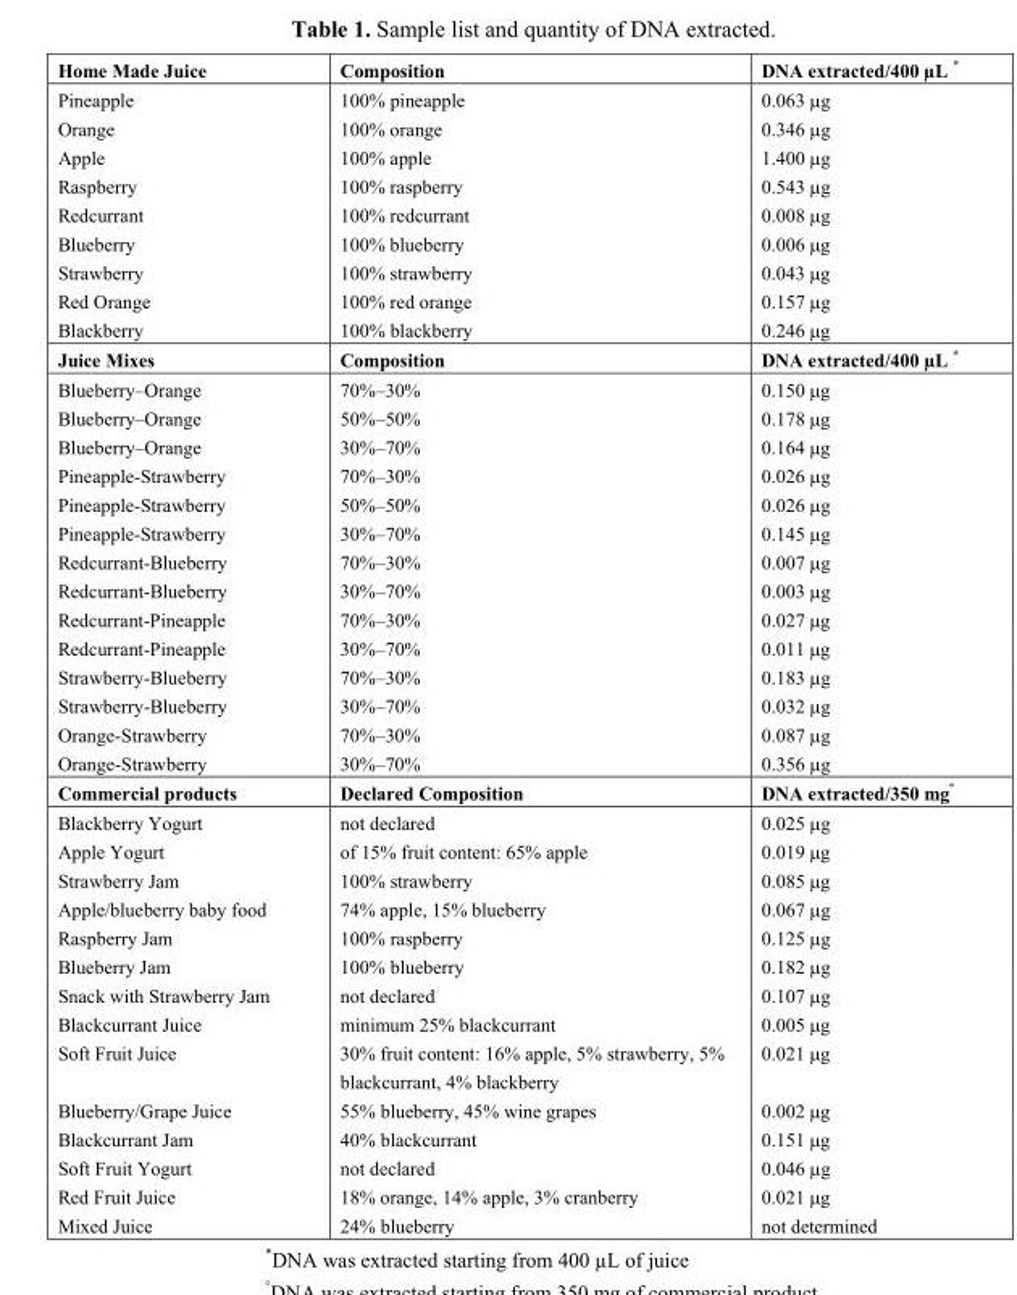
<table><thead><tr><td>Home Made Juice</td><td>Composition</td><td>DNA extracted/400 µL *</td></tr></thead><tbody><tr><td>Pineapple</td><td>100% pineapple</td><td>0.063 μg</td></tr><tr><td>Orange</td><td>100% orange</td><td>0.346 μg</td></tr><tr><td>Apple</td><td>100% apple</td><td>1.400 μg</td></tr><tr><td>Raspberry</td><td>100% raspberry</td><td>0.543 μg</td></tr><tr><td>Redcurrant</td><td>100% redcurrant</td><td>0.008 μg</td></tr><tr><td>Blueberry</td><td>100% blueberry</td><td>0.006 μg</td></tr><tr><td>Strawberry</td><td>100% strawberry</td><td>0.043 μg</td></tr><tr><td>Red Orange</td><td>100% red orange</td><td>0.157 μg</td></tr><tr><td>Blackberry</td><td>100% blackberry</td><td>0.246 μg</td></tr><tr><td>Juice Mixes</td><td>Composition</td><td>DNA extracted/400 µL *</td></tr><tr><td>Blueberry–Orange</td><td>70%–30%</td><td>0.150 μg</td></tr><tr><td>Blueberry–Orange</td><td>50%–50%</td><td>0.178 μg</td></tr><tr><td>Blueberry–Orange</td><td>30%–70%</td><td>0.164 μg</td></tr><tr><td>Pineapple-Strawberry</td><td>70%–30%</td><td>0.026 μg</td></tr><tr><td>Pineapple-Strawberry</td><td>50%–50%</td><td>0.026 μg</td></tr><tr><td>Pineapple-Strawberry</td><td>30%–70%</td><td>0.145 μg</td></tr><tr><td>Redcurrant-Blueberry</td><td>70%–30%</td><td>0.007 μg</td></tr><tr><td>Redcurrant-Blueberry</td><td>30%–70%</td><td>0.003 μg</td></tr><tr><td>Redcurrant-Pineapple</td><td>70%–30%</td><td>0.027 μg</td></tr><tr><td>Redcurrant-Pineapple</td><td>30%–70%</td><td>0.011 μg</td></tr><tr><td>Strawberry-Blueberry</td><td>70%–30%</td><td>0.183 μg</td></tr><tr><td>Strawberry-Blueberry</td><td>30%–70%</td><td>0.032 μg</td></tr><tr><td>Orange-Strawberry</td><td>70%–30%</td><td>0.087 μg</td></tr><tr><td>Orange-Strawberry</td><td>30%–70%</td><td>0.356 μg</td></tr><tr><td>Commercial products</td><td>Declared Composition</td><td>DNA extracted/350 mgº</td></tr><tr><td>Blackberry Yogurt</td><td>not declared</td><td>0.025 μg</td></tr><tr><td>Apple Yogurt</td><td>of 15% fruit content: 65% apple</td><td>0.019 μg</td></tr><tr><td>Strawberry Jam</td><td>100% strawberry</td><td>0.085 μg</td></tr><tr><td>Apple/blueberry baby food</td><td>74% apple, 15% blueberry</td><td>0.067 μg</td></tr><tr><td>Raspberry Jam</td><td>100% raspberry</td><td>0.125 μg</td></tr><tr><td>Blueberry Jam</td><td>100% blueberry</td><td>0.182 μg</td></tr><tr><td>Snack with Strawberry Jam</td><td>not declared</td><td>0.107 μg</td></tr><tr><td>Blackcurrant Juice</td><td>minimum 25% blackcurrant</td><td>0.005 μg</td></tr><tr><td>Soft Fruit Juice</td><td>30% fruit content: 16% apple, 5% strawberry, 5% blackcurrant, 4% blackberry</td><td>0.021 μg</td></tr><tr><td>Blueberry/Grape Juice</td><td>55% blueberry, 45% wine grapes</td><td>0.002 μg</td></tr><tr><td>Blackcurrant Jam</td><td>40% blackcurrant</td><td>0.151 μg</td></tr><tr><td>Soft Fruit Yogurt</td><td>not declared</td><td>0.046 μg</td></tr><tr><td>Red Fruit Juice</td><td>18% orange, 14% apple, 3% cranberry</td><td>0.021 μg</td></tr><tr><td>Mixed Juice</td><td>24% blueberry</td><td>not determined</td></tr></tbody></table>